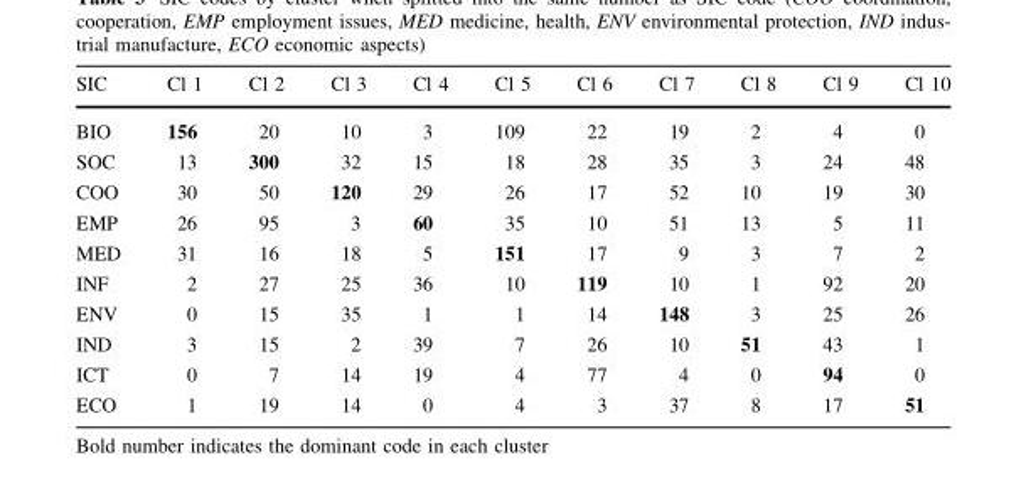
<table><thead><tr><td>SIC</td><td>Cl 1</td><td>Cl 2</td><td>Cl 3</td><td>Cl 4</td><td>Cl 5</td><td>Cl 6</td><td>Cl 7</td><td>Cl 8</td><td>Cl 9</td><td>Cl 10</td></tr></thead><tbody><tr><td>BIO</td><td>156</td><td>20</td><td>10</td><td>3</td><td>109</td><td>22</td><td>19</td><td>2</td><td>4</td><td>0</td></tr><tr><td>SOC</td><td>13</td><td>300</td><td>32</td><td>15</td><td>18</td><td>28</td><td>35</td><td>3</td><td>24</td><td>48</td></tr><tr><td>COO</td><td>30</td><td>50</td><td>120</td><td>29</td><td>26</td><td>17</td><td>52</td><td>10</td><td>19</td><td>30</td></tr><tr><td>EMP</td><td>26</td><td>95</td><td>3</td><td>60</td><td>35</td><td>10</td><td>51</td><td>13</td><td>5</td><td>11</td></tr><tr><td>MED</td><td>31</td><td>16</td><td>18</td><td>5</td><td>151</td><td>17</td><td>9</td><td>3</td><td>7</td><td>2</td></tr><tr><td>INF</td><td>2</td><td>27</td><td>25</td><td>36</td><td>10</td><td>119</td><td>10</td><td>1</td><td>92</td><td>20</td></tr><tr><td>ENV</td><td>0</td><td>15</td><td>35</td><td>1</td><td>1</td><td>14</td><td>148</td><td>3</td><td>25</td><td>26</td></tr><tr><td>IND</td><td>3</td><td>15</td><td>2</td><td>39</td><td>7</td><td>26</td><td>10</td><td>51</td><td>43</td><td>1</td></tr><tr><td>ICT</td><td>0</td><td>7</td><td>14</td><td>19</td><td>4</td><td>77</td><td>4</td><td>0</td><td>94</td><td>0</td></tr><tr><td>ECO</td><td>1</td><td>19</td><td>14</td><td>0</td><td>4</td><td>3</td><td>37</td><td>8</td><td>17</td><td>51</td></tr></tbody></table>